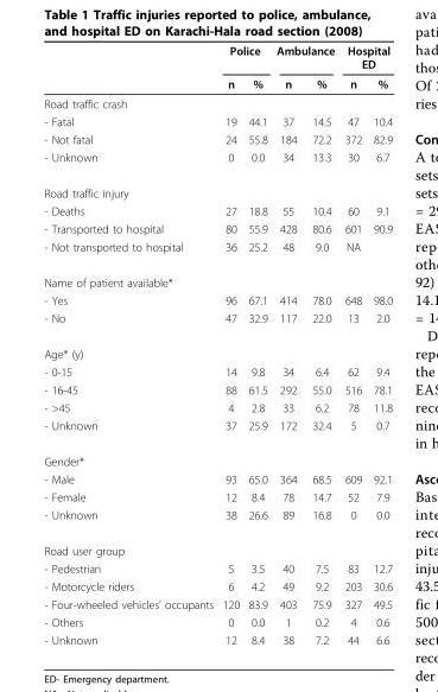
<table><thead><tr><td rowspan="2"></td><td colspan="2">Police</td><td colspan="2">Ambulance</td><td colspan="2">Hospital ED</td></tr><tr><td>n</td><td>%</td><td>n</td><td>%</td><td>n</td><td>%</td></tr></thead><tbody><tr><td colspan="7">Road traffic crash</td></tr><tr><td>- Fatal</td><td>19</td><td>44.1</td><td>37</td><td>14.5</td><td>47</td><td>10.4</td></tr><tr><td>- Not fatal</td><td>24</td><td>55.8</td><td>184</td><td>72.2</td><td>372</td><td>82.9</td></tr><tr><td>- Unknown</td><td>0</td><td>0.0</td><td>34</td><td>13.3</td><td>30</td><td>6.7</td></tr><tr><td colspan="7">Road traffic injury</td></tr><tr><td>- Deaths</td><td>27</td><td>18.8</td><td>55</td><td>10.4</td><td>60</td><td>9.1</td></tr><tr><td>- Transported to hospital</td><td>80</td><td>55.9</td><td>428</td><td>80.6</td><td>601</td><td>90.9</td></tr><tr><td>- Not transported to hospital</td><td>36</td><td>25.2</td><td>48</td><td>9.0</td><td>NA</td><td></td></tr><tr><td colspan="7">Name of patient available*</td></tr><tr><td>- Yes</td><td>96</td><td>67.1</td><td>414</td><td>78.0</td><td>648</td><td>98.0</td></tr><tr><td>- No</td><td>47</td><td>32.9</td><td>117</td><td>22.0</td><td>13</td><td>2.0</td></tr><tr><td colspan="7">Age* (y)</td></tr><tr><td>- 0-15</td><td>14</td><td>9.8</td><td>34</td><td>6.4</td><td>62</td><td>9.4</td></tr><tr><td>- 16-45</td><td>88</td><td>61.5</td><td>292</td><td>55.0</td><td>516</td><td>78.1</td></tr><tr><td>- &gt;45</td><td>4</td><td>2.8</td><td>33</td><td>6.2</td><td>78</td><td>11.8</td></tr><tr><td>- Unknown</td><td>37</td><td>25.9</td><td>172</td><td>32.4</td><td>5</td><td>0.7</td></tr><tr><td colspan="7">Gender*</td></tr><tr><td>- Male</td><td>93</td><td>65.0</td><td>364</td><td>68.5</td><td>609</td><td>92.1</td></tr><tr><td>- Female</td><td>12</td><td>8.4</td><td>78</td><td>14.7</td><td>52</td><td>7.9</td></tr><tr><td>- Unknown</td><td>38</td><td>26.6</td><td>89</td><td>16.8</td><td>0</td><td>0.0</td></tr><tr><td colspan="7">Road user group</td></tr><tr><td>- Pedestrian</td><td>5</td><td>3.5</td><td>40</td><td>7.5</td><td>83</td><td>12.7</td></tr><tr><td>- Motorcycle riders</td><td>6</td><td>4.2</td><td>49</td><td>9.2</td><td>203</td><td>30.6</td></tr><tr><td>- Four-wheeled vehicles’ occupants</td><td>120</td><td>83.9</td><td>403</td><td>75.9</td><td>327</td><td>49.5</td></tr><tr><td>- Others</td><td>0</td><td>0.0</td><td>1</td><td>0.2</td><td>4</td><td>0.6</td></tr><tr><td>- Unknown</td><td>12</td><td>8.4</td><td>38</td><td>7.2</td><td>44</td><td>6.6</td></tr></tbody></table>